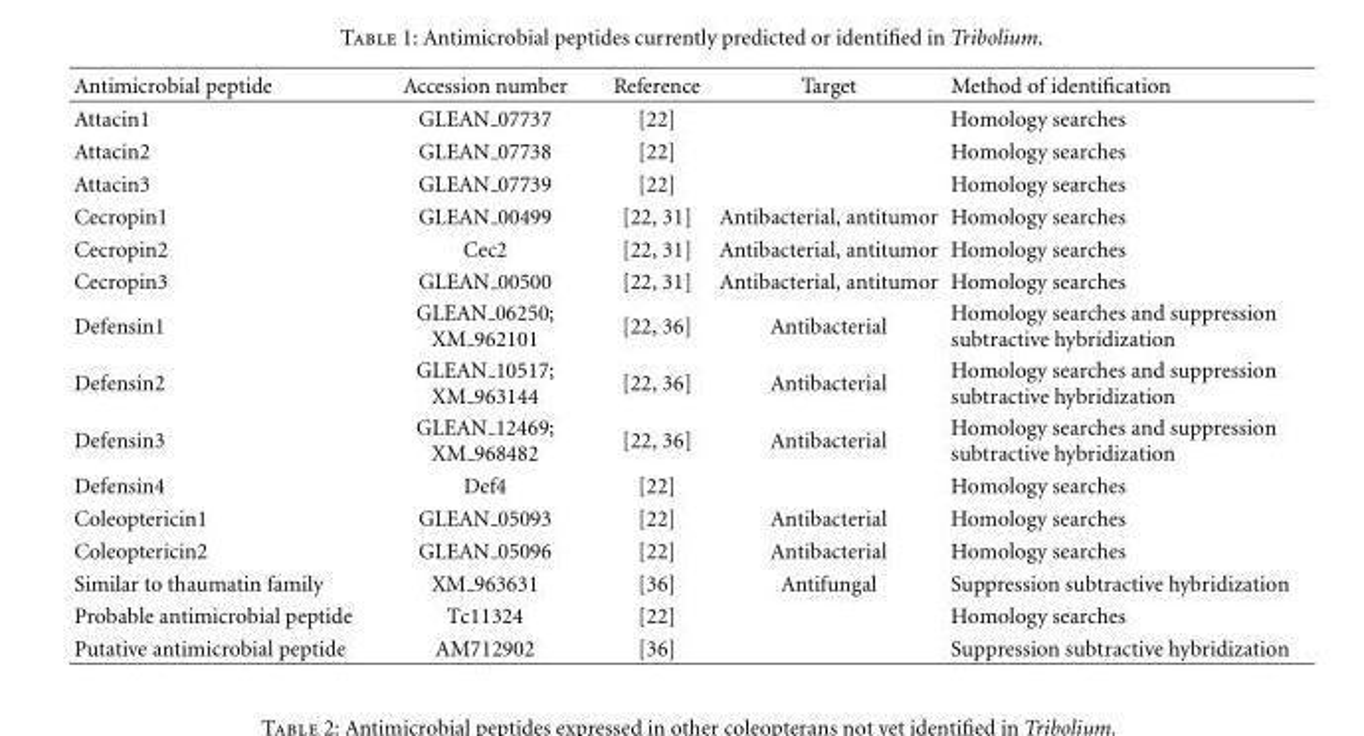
<table><thead><tr><td>Antimicrobial peptide</td><td>Accession number</td><td>Reference</td><td>Target</td><td>Method of identification</td></tr></thead><tbody><tr><td>Attacin1</td><td>GLEAN 07737</td><td>[22]</td><td></td><td>Homology searches</td></tr><tr><td>Attacin2</td><td>GLEAN 07738</td><td>[22]</td><td></td><td>Homology searches</td></tr><tr><td>Attacin3</td><td>GLEAN 07739</td><td>[22]</td><td></td><td>Homology searches</td></tr><tr><td>Cecropin1</td><td>GLEAN 00499</td><td>[22, 31]</td><td>Antibacterial, antitumor</td><td>Homology searches</td></tr><tr><td>Cecropin2</td><td>Cec2</td><td>[22, 31]</td><td>Antibacterial, antitumor</td><td>Homology searches</td></tr><tr><td>Cecropin3</td><td>GLEAN 00500</td><td>[22, 31]</td><td>Antibacterial, antitumor</td><td>Homology searches</td></tr><tr><td>Defensin1</td><td>GLEAN <sub>06250; XM</sub> 962101</td><td>[22, 36]</td><td>Antibacterial</td><td>Homology searches and suppression subtractive hybridization</td></tr><tr><td>Defensin2</td><td>GLEAN <sub>10517; XM</sub> 963144</td><td>[22, 36]</td><td>Antibacterial</td><td>Homology searches and suppression subtractive hybridization</td></tr><tr><td>Defensin3</td><td>GLEAN <sub>12469; XM</sub> 968482</td><td>[22, 36]</td><td>Antibacterial</td><td>Homology searches and suppression subtractive hybridization</td></tr><tr><td>Defensin4</td><td>Def4</td><td>[22]</td><td></td><td>Homology searches</td></tr><tr><td>Coleoptericin1</td><td>GLEAN 05093</td><td>[22]</td><td>Antibacterial</td><td>Homology searches</td></tr><tr><td>Coleoptericin2</td><td>GLEAN 05096</td><td>[22]</td><td>Antibacterial</td><td>Homology searches</td></tr><tr><td>Similar to thaumatin family</td><td>XM 963631</td><td>[36]</td><td>Antifungal</td><td>Suppression subtractive hybridization</td></tr><tr><td>Probable antimicrobial peptide</td><td>Tc11324</td><td>[22]</td><td></td><td>Homology searches</td></tr><tr><td>Putative antimicrobial peptide</td><td>AM712902</td><td>[36]</td><td></td><td>Suppression subtractive hybridization</td></tr></tbody></table>